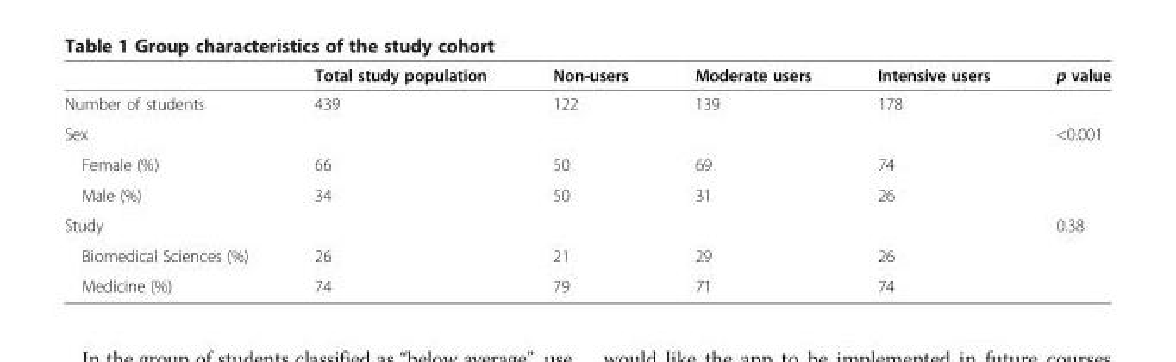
<table><thead><tr><td></td><td>Total study population</td><td>Non-users</td><td>Moderate users</td><td>Intensive users</td><td>p value</td></tr></thead><tbody><tr><td>Number of students</td><td>439</td><td>122</td><td>139</td><td>178</td><td></td></tr><tr><td>Sex</td><td></td><td></td><td></td><td></td><td>&lt;0.001</td></tr><tr><td>Female (%)</td><td>66</td><td>50</td><td>69</td><td>74</td><td></td></tr><tr><td>Male (%)</td><td>34</td><td>50</td><td>31</td><td>26</td><td></td></tr><tr><td>Study</td><td></td><td></td><td></td><td></td><td>0.38</td></tr><tr><td>Biomedical Sciences (%)</td><td>26</td><td>21</td><td>29</td><td>26</td><td></td></tr><tr><td>Medicine (%)</td><td>74</td><td>79</td><td>71</td><td>74</td><td></td></tr></tbody></table>